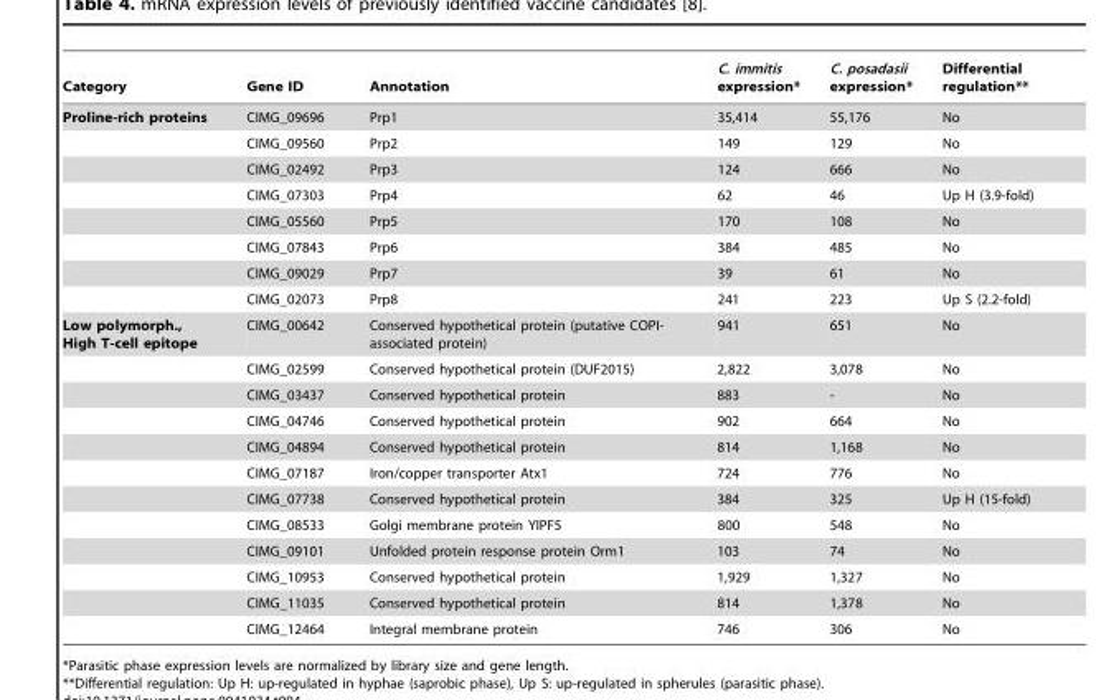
<table><thead><tr><td>Category</td><td>Gene ID</td><td>Annotation</td><td>C. immitis expression*</td><td>C. posadasii expression*</td><td>Differential regulation**</td></tr></thead><tbody><tr><td rowspan="8">Proline-rich proteins</td><td>CIMG_09696</td><td>Prp1</td><td>35,414</td><td>55,176</td><td>No</td></tr><tr><td>CIMG_09560</td><td>Prp2</td><td>149</td><td>129</td><td>No</td></tr><tr><td>CIMG_02492</td><td>Prp3</td><td>124</td><td>666</td><td>No</td></tr><tr><td>CIMG_07303</td><td>Prp4</td><td>62</td><td>46</td><td>Up H (3.9-fold)</td></tr><tr><td>CIMG_05560</td><td>Prp5</td><td>170</td><td>108</td><td>No</td></tr><tr><td>CIMG_07843</td><td>Prp6</td><td>384</td><td>485</td><td>No</td></tr><tr><td>CIMG_09029</td><td>Prp7</td><td>39</td><td>61</td><td>No</td></tr><tr><td>CIMG_02073</td><td>Prp8</td><td>241</td><td>223</td><td>Up S (2.2-fold)</td></tr><tr><td rowspan="12">Low polymorph., High T-cell epitope</td><td>CIMG_00642</td><td>Conserved hypothetical protein (putative COPI- associated protein)</td><td>941</td><td>651</td><td>No</td></tr><tr><td>CIMG_02599</td><td>Conserved hypothetical protein (DUF2015)</td><td>2,822</td><td>3,078</td><td>No</td></tr><tr><td>CIMG_03437</td><td>Conserved hypothetical protein</td><td>883</td><td>-</td><td>No</td></tr><tr><td>CIMG_04746</td><td>Conserved hypothetical protein</td><td>902</td><td>664</td><td>No</td></tr><tr><td>CIMG_04894</td><td>Conserved hypothetical protein</td><td>814</td><td>1,168</td><td>No</td></tr><tr><td>CIMG_07187</td><td>Iron/copper transporter Atx1</td><td>724</td><td>776</td><td>No</td></tr><tr><td>CIMG_07738</td><td>Conserved hypothetical protein</td><td>384</td><td>325</td><td>Up H (15-fold)</td></tr><tr><td>CIMG_08533</td><td>Golgi membrane protein YIPF5</td><td>800</td><td>548</td><td>No</td></tr><tr><td>CIMG_09101</td><td>Unfolded protein response protein Orm1</td><td>103</td><td>74</td><td>No</td></tr><tr><td>CIMG_10953</td><td>Conserved hypothetical protein</td><td>1,929</td><td>1,327</td><td>No</td></tr><tr><td>CIMG_11035</td><td>Conserved hypothetical protein</td><td>814</td><td>1,378</td><td>No</td></tr><tr><td>CIMG_12464</td><td>Integral membrane protein</td><td>746</td><td>306</td><td>No</td></tr></tbody></table>